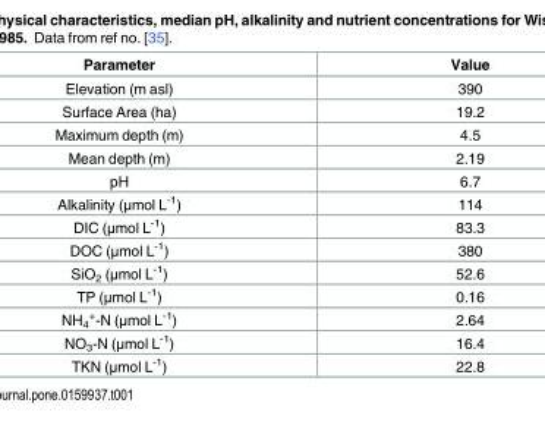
<table><thead><tr><td>Parameter</td><td>Value</td></tr></thead><tbody><tr><td>Elevation (m asl)</td><td>390</td></tr><tr><td>Surface Area (ha)</td><td>19.2</td></tr><tr><td>Maximum depth (m)</td><td>4.5</td></tr><tr><td>Mean depth (m)</td><td>2.19</td></tr><tr><td>pH</td><td>6.7</td></tr><tr><td>Alkalinity (μmol L<sup>-1</sup>)</td><td>114</td></tr><tr><td>DIC (μmol L<sup>-1</sup>)</td><td>83.3</td></tr><tr><td>DOC (μmol L<sup>-1</sup>)</td><td>380</td></tr><tr><td>SiO<sub>2</sub> (μmol L<sup>-1</sup>)</td><td>52.6</td></tr><tr><td>TP (μmol L<sup>-1</sup>)</td><td>0.16</td></tr><tr><td>NH<sub>4</sub> <sup>+</sup>-N (μmol L<sup>-1</sup>)</td><td>2.64</td></tr><tr><td>NO<sub>3</sub>-N (μmol L<sup>-1</sup>)</td><td>16.4</td></tr><tr><td>TKN (μmol L<sup>-1</sup>)</td><td>22.8</td></tr></tbody></table>